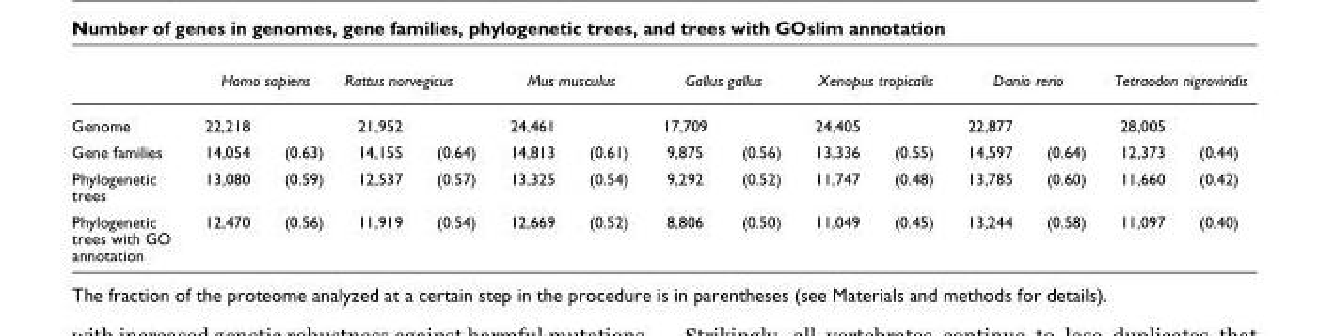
<table><thead><tr><td rowspan="2">Genome</td><td colspan="2">Homo sapiens</td><td colspan="2">Rattus norvegicus</td><td colspan="2">Mus musculus</td><td colspan="2">Gallus gallus</td><td colspan="2">Xenopus tropicalis</td><td colspan="2">Danio rerio</td><td colspan="2">Tetraodon nigroviridis</td></tr><tr><td>22,218</td><td></td><td>21,952</td><td></td><td>24,461</td><td></td><td>17,709</td><td></td><td>24,405</td><td></td><td>22,877</td><td></td><td>28,005</td><td></td></tr></thead><tbody><tr><td>Gene families</td><td>14,054</td><td>(0.63)</td><td>14,155</td><td>(0.64)</td><td>14,813</td><td>(0.61)</td><td>9,875</td><td>(0.56)</td><td>13,336</td><td>(0.55)</td><td>14,597</td><td>(0.64)</td><td>12,373</td><td>(0.44)</td></tr><tr><td>Phylogenetic trees</td><td>13,080</td><td>(0.59)</td><td>12,537</td><td>(0.57)</td><td>13,325</td><td>(0.54)</td><td>9,292</td><td>(0.52)</td><td>11,747</td><td>(0.48)</td><td>13,785</td><td>(0.60)</td><td>11,660</td><td>(0.42)</td></tr><tr><td>Phylogenetic trees with GO annotation</td><td>12,470</td><td>(0.56)</td><td>11,919</td><td>(0.54)</td><td>12,669</td><td>(0.52)</td><td>8,806</td><td>(0.50)</td><td>11,049</td><td>(0.45)</td><td>13,244</td><td>(0.58)</td><td>11,097</td><td>(0.40)</td></tr></tbody></table>